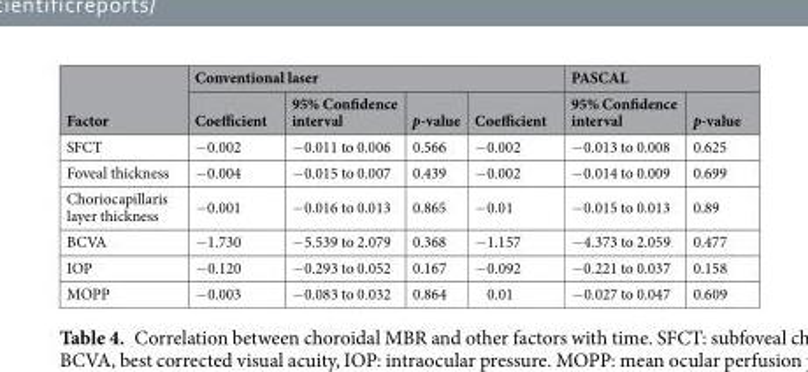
<table><thead><tr><td rowspan="2">Factor</td><td colspan="4">Conventional laser</td><td colspan="2">PASCAL</td></tr><tr><td>Coefficient</td><td>95% Confidence interval</td><td>p-value</td><td>Coefficient</td><td>95% Confidence interval</td><td>p-value</td></tr></thead><tbody><tr><td>SFCT</td><td>−0.002</td><td>−0.011 to 0.006</td><td>0.566</td><td>−0.002</td><td>−0.013 to 0.008</td><td>0.625</td></tr><tr><td>Foveal thickness</td><td>−0.004</td><td>−0.015 to 0.007</td><td>0.439</td><td>−0.002</td><td>−0.014 to 0.009</td><td>0.699</td></tr><tr><td>Choriocapillaris layer thickness</td><td>−0.001</td><td>−0.016 to 0.013</td><td>0.865</td><td>−0.01</td><td>−0.015 to 0.013</td><td>0.89</td></tr><tr><td>BCVA</td><td>−1.730</td><td>−5.539 to 2.079</td><td>0.368</td><td>−1.157</td><td>−4.373 to 2.059</td><td>0.477</td></tr><tr><td>IOP</td><td>−0.120</td><td>−0.293 to 0.052</td><td>0.167</td><td>−0.092</td><td>−0.221 to 0.037</td><td>0.158</td></tr><tr><td>MOPP</td><td>−0.003</td><td>−0.083 to 0.032</td><td>0.864</td><td>0.01</td><td>−0.027 to 0.047</td><td>0.609</td></tr></tbody></table>